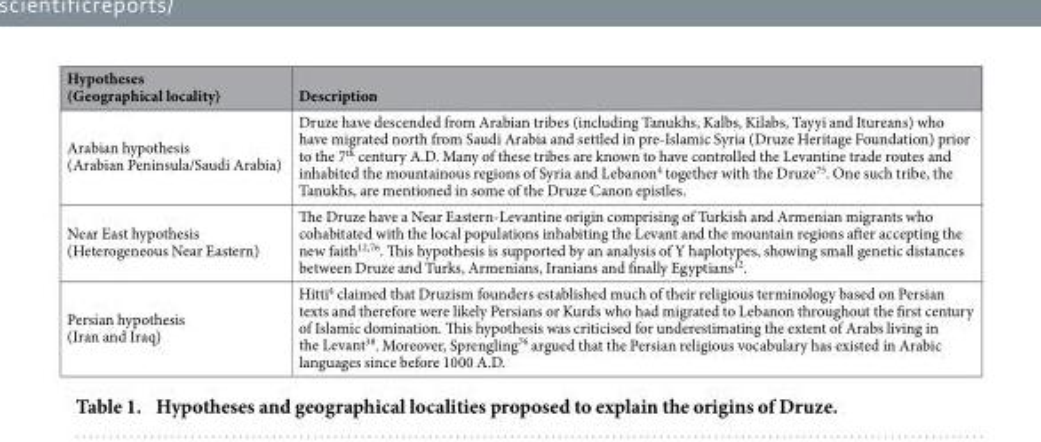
<table><thead><tr><td>Hypotheses (Geographical locality)</td><td>Description</td></tr></thead><tbody><tr><td>Arabian hypothesis (Arabian Peninsula/Saudi Arabia)</td><td>Druze have descended from Arabian tribes (including Tanukhs, Kalbs, Kilabs, Tayyi and Itureans) who have migrated north from Saudi Arabia and settled in pre-Islamic Syria (Druze Heritage Foundation) prior to the 7<sup>th</sup> century A.D. Many of these tribes are known to have controlled the Levantine trade routes and inhabited the mountainous regions of Syria and Lebanon<sup>4</sup> together with the Druze<sup>75</sup>. One such tribe, the Tanukhs, are mentioned in some of the Druze Canon epistles.</td></tr><tr><td>Near East hypothesis (Heterogeneous Near Eastern)</td><td>The Druze have a Near Eastern-Levantine origin comprising of Turkish and Armenian migrants who cohabitated with the local populations inhabiting the Levant and the mountain regions after accepting the new faith<sup>12</sup>,<sup>76</sup>. This hypothesis is supported by an analysis of Y haplotypes, showing small genetic distances between Druze and Turks, Armenians, Iranians and finally Egyptians<sup>12</sup>.</td></tr><tr><td>Persian hypothesis (Iran and Iraq)</td><td>Hitti<sup>4</sup> claimed that Druzism founders established much of their religious terminology based on Persian texts and therefore were likely Persians or Kurds who had migrated to Lebanon throughout the first century of Islamic domination. This hypothesis was criticised for underestimating the extent of Arabs living in the Levant<sup>38</sup>. Moreover, Sprengling<sup>76</sup> argued that the Persian religious vocabulary has existed in Arabic languages since before 1000 A.D.</td></tr></tbody></table>